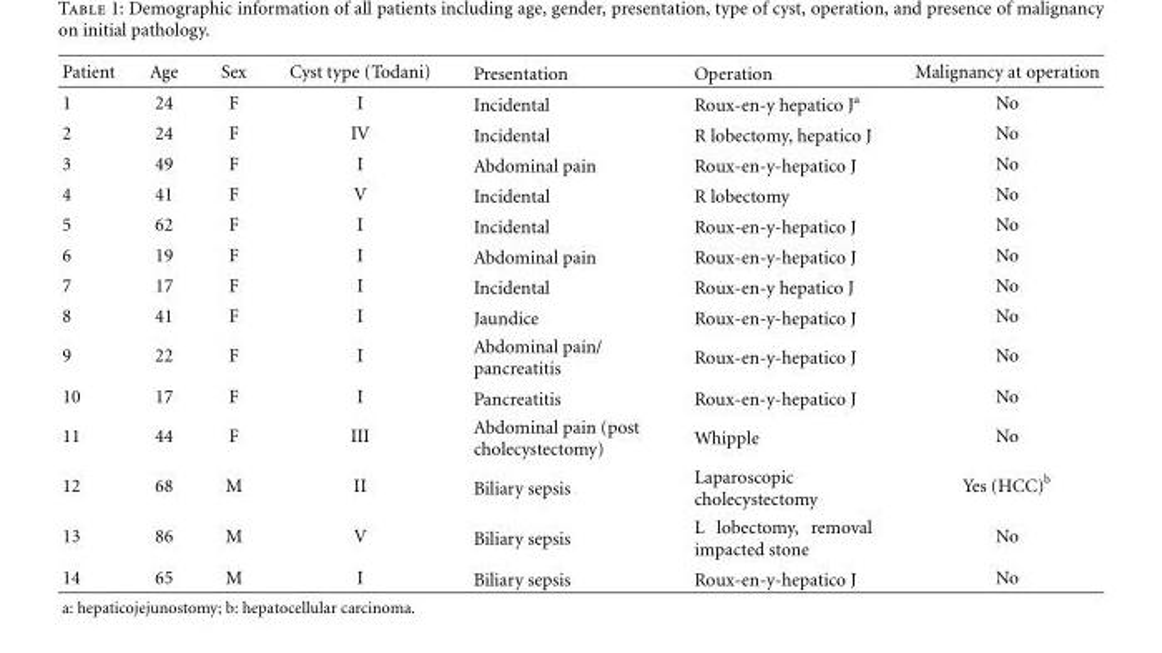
<table><thead><tr><td>Patient</td><td>Age</td><td>Sex</td><td>Cyst type (Todani)</td><td>Presentation</td><td>Operation</td><td>Malignancy at operation</td></tr></thead><tbody><tr><td>1</td><td>24</td><td>F</td><td>I</td><td>Incidental</td><td>Roux-en-y hepatico J<sup>a</sup></td><td>No</td></tr><tr><td>2</td><td>24</td><td>F</td><td>IV</td><td>Incidental</td><td>R lobectomy, hepatico J</td><td>No</td></tr><tr><td>3</td><td>49</td><td>F</td><td>I</td><td>Abdominal pain</td><td>Roux-en-y-hepatico J</td><td>No</td></tr><tr><td>4</td><td>41</td><td>F</td><td>V</td><td>Incidental</td><td>R lobectomy</td><td>No</td></tr><tr><td>5</td><td>62</td><td>F</td><td>I</td><td>Incidental</td><td>Roux-en-y-hepatico J</td><td>No</td></tr><tr><td>6</td><td>19</td><td>F</td><td>I</td><td>Abdominal pain</td><td>Roux-en-y-hepatico J</td><td>No</td></tr><tr><td>7</td><td>17</td><td>F</td><td>I</td><td>Incidental</td><td>Roux-en-y hepatico J</td><td>No</td></tr><tr><td>8</td><td>41</td><td>F</td><td>I</td><td>Jaundice</td><td>Roux-en-y-hepatico J</td><td>No</td></tr><tr><td>9</td><td>22</td><td>F</td><td>I</td><td>Abdominal pain/ pancreatitis</td><td>Roux-en-y-hepatico J</td><td>No</td></tr><tr><td>10</td><td>17</td><td>F</td><td>I</td><td>Pancreatitis</td><td>Roux-en-y-hepatico J</td><td>No</td></tr><tr><td>11</td><td>44</td><td>F</td><td>III</td><td>Abdominal pain (post cholecystectomy)</td><td>Whipple</td><td>No</td></tr><tr><td>12</td><td>68</td><td>M</td><td>II</td><td>Biliary sepsis</td><td>Laparoscopic cholecystectomy</td><td>Yes (HCC)<sup>b</sup></td></tr><tr><td>13</td><td>86</td><td>M</td><td>V</td><td>Biliary sepsis</td><td>L lobectomy, removal impacted stone</td><td>No</td></tr><tr><td>14</td><td>65</td><td>M</td><td>I</td><td>Biliary sepsis</td><td>Roux-en-y-hepatico J</td><td>No</td></tr></tbody></table>